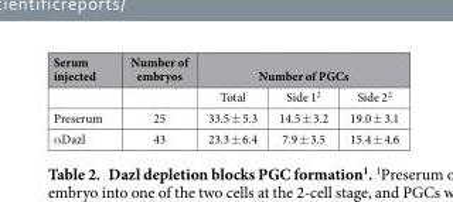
<table><thead><tr><td rowspan="2">Serum injected</td><td rowspan="2">Number of embryos</td><td colspan="3">Number of PGCs</td></tr><tr><td>Total</td><td>Side 1<sup>2</sup></td><td>Side 2<sup>2</sup></td></tr></thead><tbody><tr><td>Preserum</td><td>25</td><td>33.5 ± 5.3</td><td>14.5 ± 3.2</td><td>19.0 ± 3.1</td></tr><tr><td>α Dazl</td><td>43</td><td>23.3 ± 6.4</td><td>7.9 ± 3.5</td><td>15.4 ± 4.6</td></tr></tbody></table>